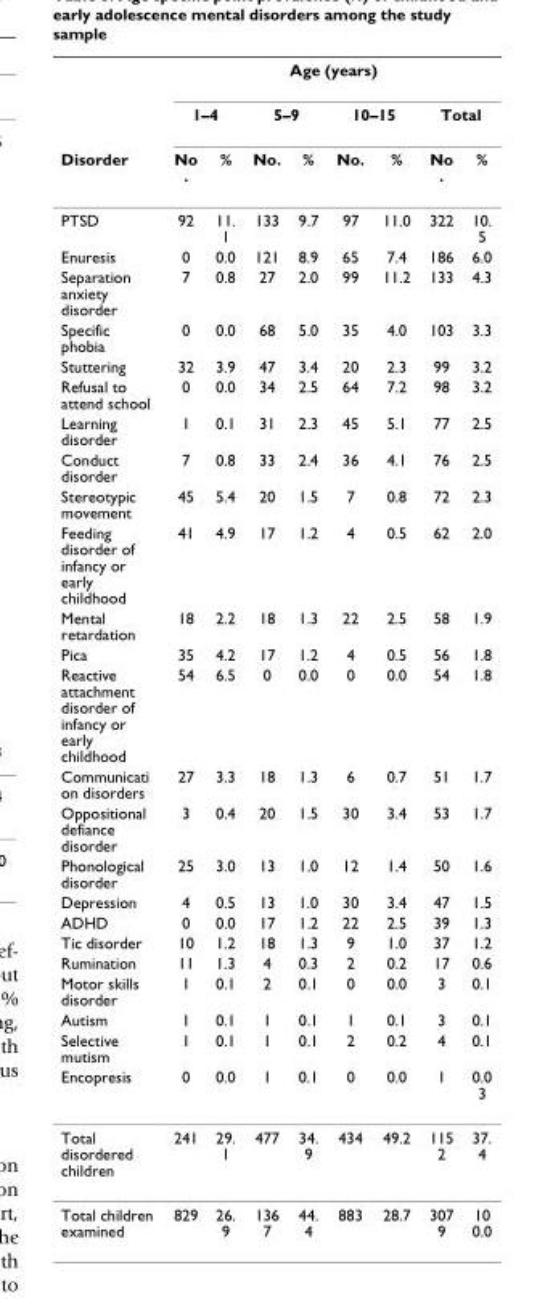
<table><thead><tr><td rowspan="3">Disorder</td><td colspan="8">Age (years)</td></tr><tr><td colspan="2">1–4</td><td colspan="2">5–9</td><td colspan="2">10–15</td><td colspan="2">Total</td></tr><tr><td>No .</td><td>%</td><td>No.</td><td>%</td><td>No.</td><td>%</td><td>No .</td><td>%</td></tr></thead><tbody><tr><td>PTSD</td><td>92</td><td>11. 1</td><td>133</td><td>9.7</td><td>97</td><td>11.0</td><td>322</td><td>10. 5</td></tr><tr><td>Enuresis</td><td>0</td><td>0.0</td><td>121</td><td>8.9</td><td>65</td><td>7.4</td><td>186</td><td>6.0</td></tr><tr><td>Separation anxiety disorder</td><td>7</td><td>0.8</td><td>27</td><td>2.0</td><td>99</td><td>11.2</td><td>133</td><td>4.3</td></tr><tr><td>Specific phobia</td><td>0</td><td>0.0</td><td>68</td><td>5.0</td><td>35</td><td>4.0</td><td>103</td><td>3.3</td></tr><tr><td>Stuttering</td><td>32</td><td>3.9</td><td>47</td><td>3.4</td><td>20</td><td>2.3</td><td>99</td><td>3.2</td></tr><tr><td>Refusal to attend school</td><td>0</td><td>0.0</td><td>34</td><td>2.5</td><td>64</td><td>7.2</td><td>98</td><td>3.2</td></tr><tr><td>Learning disorder</td><td>1</td><td>0.1</td><td>31</td><td>2.3</td><td>45</td><td>5.1</td><td>77</td><td>2.5</td></tr><tr><td>Conduct disorder</td><td>7</td><td>0.8</td><td>33</td><td>2.4</td><td>36</td><td>4.1</td><td>76</td><td>2.5</td></tr><tr><td>Stereotypic movement</td><td>45</td><td>5.4</td><td>20</td><td>1.5</td><td>7</td><td>0.8</td><td>72</td><td>2.3</td></tr><tr><td>Feeding disorder of infancy or early childhood</td><td>41</td><td>4.9</td><td>17</td><td>1.2</td><td>4</td><td>0.5</td><td>62</td><td>2.0</td></tr><tr><td>Mental retardation</td><td>18</td><td>2.2</td><td>18</td><td>1.3</td><td>22</td><td>2.5</td><td>58</td><td>1.9</td></tr><tr><td>Pica</td><td>35</td><td>4.2</td><td>17</td><td>1.2</td><td>4</td><td>0.5</td><td>56</td><td>1.8</td></tr><tr><td>Reactive attachment disorder of infancy or early childhood</td><td>54</td><td>6.5</td><td>0</td><td>0.0</td><td>0</td><td>0.0</td><td>54</td><td>1.8</td></tr><tr><td>Communicati on disorders</td><td>27</td><td>3.3</td><td>18</td><td>1.3</td><td>6</td><td>0.7</td><td>51</td><td>1.7</td></tr><tr><td>Oppositional defiance disorder</td><td>3</td><td>0.4</td><td>20</td><td>1.5</td><td>30</td><td>3.4</td><td>53</td><td>1.7</td></tr><tr><td>Phonological disorder</td><td>25</td><td>3.0</td><td>13</td><td>1.0</td><td>12</td><td>1.4</td><td>50</td><td>1.6</td></tr><tr><td>Depression</td><td>4</td><td>0.5</td><td>13</td><td>1.0</td><td>30</td><td>3.4</td><td>47</td><td>1.5</td></tr><tr><td>ADHD</td><td>0</td><td>0.0</td><td>17</td><td>1.2</td><td>22</td><td>2.5</td><td>39</td><td>1.3</td></tr><tr><td>Tic disorder</td><td>10</td><td>1.2</td><td>18</td><td>1.3</td><td>9</td><td>1.0</td><td>37</td><td>1.2</td></tr><tr><td>Rumination</td><td>11</td><td>1.3</td><td>4</td><td>0.3</td><td>2</td><td>0.2</td><td>17</td><td>0.6</td></tr><tr><td>Motor skills disorder</td><td>1</td><td>0.1</td><td>2</td><td>0.1</td><td>0</td><td>0.0</td><td>3</td><td>0.1</td></tr><tr><td>Autism</td><td>1</td><td>0.1</td><td>1</td><td>0.1</td><td>1</td><td>0.1</td><td>3</td><td>0.1</td></tr><tr><td>Selective mutism</td><td>1</td><td>0.1</td><td>1</td><td>0.1</td><td>2</td><td>0.2</td><td>4</td><td>0.1</td></tr><tr><td>Encopresis</td><td>0</td><td>0.0</td><td>1</td><td>0.1</td><td>0</td><td>0.0</td><td>1</td><td>0.0 3</td></tr><tr><td>Total disordered children</td><td>241</td><td>29. 1</td><td>477</td><td>34. 9</td><td>434</td><td>49.2</td><td>115 2</td><td>37. 4</td></tr><tr><td>Total children examined</td><td>829</td><td>26. 9</td><td>136 7</td><td>44. 4</td><td>883</td><td>28.7</td><td>307 9</td><td>10 0.0</td></tr></tbody></table>